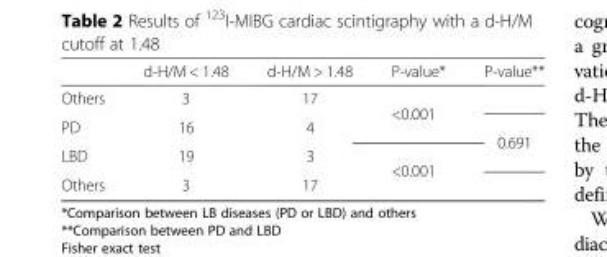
<table><thead><tr><td></td><td>d-H/M &lt; 1.48</td><td>d-H/M &gt; 1.48</td><td>P-value*</td><td>P-value**</td></tr></thead><tbody><tr><td>Others</td><td>3</td><td>17</td><td rowspan="2">&lt;0.001</td><td></td></tr><tr><td>PD</td><td>16</td><td>4</td><td rowspan="2">0.691</td></tr><tr><td>LBD</td><td>19</td><td>3</td><td rowspan="2">&lt;0.001</td></tr><tr><td>Others</td><td>3</td><td>17</td><td></td></tr></tbody></table>